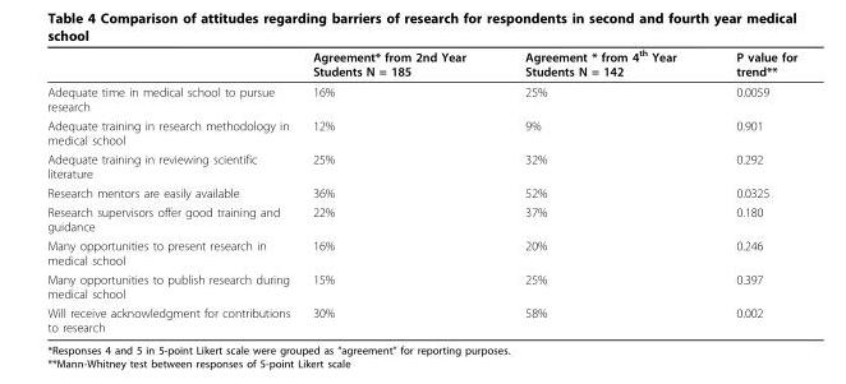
<table><thead><tr><td></td><td>Agreement* from 2nd Year Students N = 185</td><td>Agreement * from 4<sup>th</sup> Year Students N = 142</td><td>P value for trend**</td></tr></thead><tbody><tr><td>Adequate time in medical school to pursue research</td><td>16%</td><td>25%</td><td>0.0059</td></tr><tr><td>Adequate training in research methodology in medical school</td><td>12%</td><td>9%</td><td>0.901</td></tr><tr><td>Adequate training in reviewing scientific literature</td><td>25%</td><td>32%</td><td>0.292</td></tr><tr><td>Research mentors are easily available</td><td>36%</td><td>52%</td><td>0.0325</td></tr><tr><td>Research supervisors offer good training and guidance</td><td>22%</td><td>37%</td><td>0.180</td></tr><tr><td>Many opportunities to present research in medical school</td><td>16%</td><td>20%</td><td>0.246</td></tr><tr><td>Many opportunities to publish research during medical school</td><td>15%</td><td>25%</td><td>0.397</td></tr><tr><td>Will receive acknowledgment for contributions to research</td><td>30%</td><td>58%</td><td>0.002</td></tr></tbody></table>